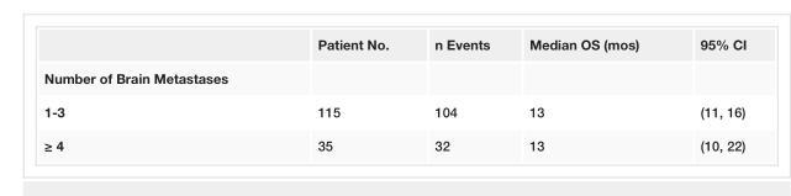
<table><thead><tr><td></td><td>Patient No.</td><td>n Events</td><td>Median OS (mos)</td><td>95% CI</td></tr></thead><tbody><tr><td colspan="5">Number of Brain Metastases</td></tr><tr><td>1-3</td><td>115</td><td>104</td><td>13</td><td>(11, 16)</td></tr><tr><td>≥ 4</td><td>35</td><td>32</td><td>13</td><td>(10, 22)</td></tr></tbody></table>